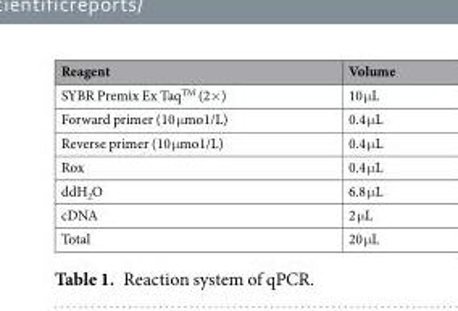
<table><thead><tr><td>Reagent</td><td>Volume</td></tr></thead><tbody><tr><td>SYBR Premix Ex Taq<sup>TM</sup> (2×)</td><td>10 μL</td></tr><tr><td>Forward primer (10 μmo1/L)</td><td>0.4 μL</td></tr><tr><td>Reverse primer (10 μmo1/L)</td><td>0.4 μL</td></tr><tr><td>Rox</td><td>0.4 μL</td></tr><tr><td>ddH<sub>2</sub>O</td><td>6.8 μL</td></tr><tr><td>cDNA</td><td>2 μL</td></tr><tr><td>Total</td><td>20 μL</td></tr></tbody></table>